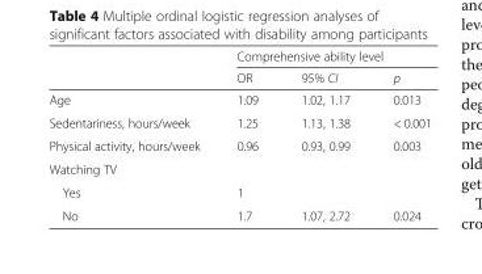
<table><thead><tr><td rowspan="2"></td><td colspan="3">Comprehensive ability level</td></tr><tr><td>OR</td><td>95% CI</td><td>p</td></tr></thead><tbody><tr><td>Age</td><td>1.09</td><td>1.02, 1.17</td><td>0.013</td></tr><tr><td>Sedentariness, hours/week</td><td>1.25</td><td>1.13, 1.38</td><td>&lt; 0.001</td></tr><tr><td>Physical activity, hours/week</td><td>0.96</td><td>0.93, 0.99</td><td>0.003</td></tr><tr><td colspan="4">Watching TV</td></tr><tr><td>Yes</td><td>1</td><td></td><td></td></tr><tr><td>No</td><td>1.7</td><td>1.07, 2.72</td><td>0.024</td></tr></tbody></table>